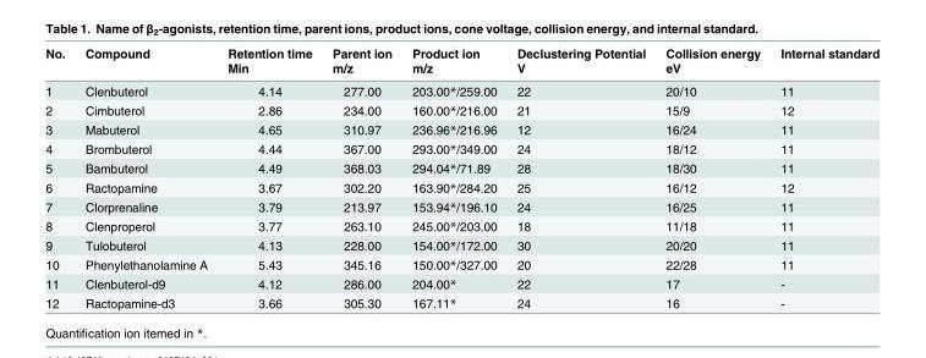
<table><thead><tr><td rowspan="2">No.</td><td rowspan="2">Compound</td><td rowspan="2">Retention time Min</td><td rowspan="2">Parent ion m/z</td><td rowspan="2">Product ion m/z</td><td rowspan="2">Declustering Potential V</td><td rowspan="2">Collision energy eV</td><td rowspan="2">Internal standard</td></tr><tr></tr></thead><tbody><tr><td>1</td><td>Clenbuterol</td><td>4.14</td><td>277.00</td><td>203.00*/259.00</td><td>22</td><td>20/10</td><td>11</td></tr><tr><td>2</td><td>Cimbuterol</td><td>2.86</td><td>234.00</td><td>160.00*/216.00</td><td>21</td><td>15/9</td><td>12</td></tr><tr><td>3</td><td>Mabuterol</td><td>4.65</td><td>310.97</td><td>236.96*/216.96</td><td>12</td><td>16/24</td><td>11</td></tr><tr><td>4</td><td>Brombuterol</td><td>4.44</td><td>367.00</td><td>293.00*/349.00</td><td>24</td><td>18/12</td><td>11</td></tr><tr><td>5</td><td>Bambuterol</td><td>4.49</td><td>368.03</td><td>294.04*/71.89</td><td>28</td><td>18/30</td><td>11</td></tr><tr><td>6</td><td>Ractopamine</td><td>3.67</td><td>302.20</td><td>163.90*/284.20</td><td>25</td><td>16/12</td><td>12</td></tr><tr><td>7</td><td>Clorprenaline</td><td>3.79</td><td>213.97</td><td>153.94*/196.10</td><td>24</td><td>16/25</td><td>11</td></tr><tr><td>8</td><td>Clenproperol</td><td>3.77</td><td>263.10</td><td>245.00*/203.00</td><td>18</td><td>11/18</td><td>11</td></tr><tr><td>9</td><td>Tulobuterol</td><td>4.13</td><td>228.00</td><td>154.00*/172.00</td><td>30</td><td>20/20</td><td>11</td></tr><tr><td>10</td><td>Phenylethanolamine A</td><td>5.43</td><td>345.16</td><td>150.00*/327.00</td><td>20</td><td>22/28</td><td>11</td></tr><tr><td>11</td><td>Clenbuterol-d9</td><td>4.12</td><td>286.00</td><td>204.00*</td><td>22</td><td>17</td><td>-</td></tr><tr><td>12</td><td>Ractopamine-d3</td><td>3.66</td><td>305.30</td><td>167.11*</td><td>24</td><td>16</td><td>-</td></tr></tbody></table>